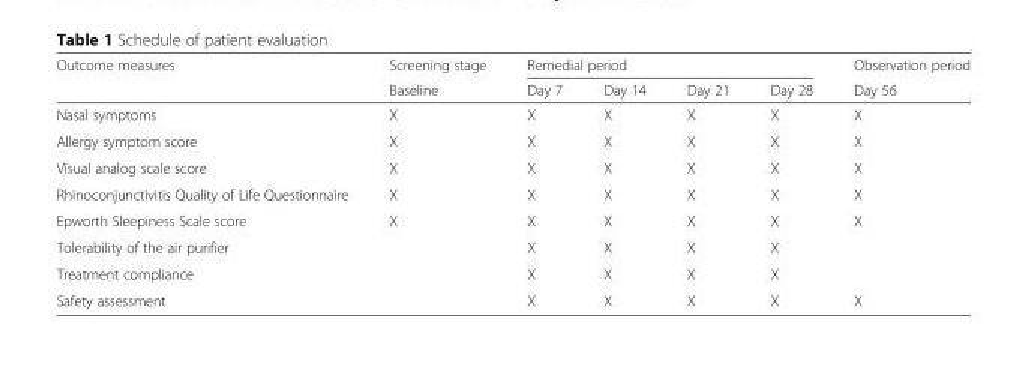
<table><thead><tr><td rowspan="2">Outcome measures</td><td rowspan="2">Screening stage Baseline</td><td colspan="4">Remedial period</td><td rowspan="2">Observation period Day 56</td></tr><tr><td>Day 7</td><td>Day 14</td><td>Day 21</td><td>Day 28</td></tr></thead><tbody><tr><td>Nasal symptoms</td><td>X</td><td>X</td><td>X</td><td>X</td><td>X</td><td>X</td></tr><tr><td>Allergy symptom score</td><td>X</td><td>X</td><td>X</td><td>X</td><td>X</td><td>X</td></tr><tr><td>Visual analog scale score</td><td>X</td><td>X</td><td>X</td><td>X</td><td>X</td><td>X</td></tr><tr><td>Rhinoconjunctivitis Quality of Life Questionnaire</td><td>X</td><td>X</td><td>X</td><td>X</td><td>X</td><td>X</td></tr><tr><td>Epworth Sleepiness Scale score</td><td>X</td><td>X</td><td>X</td><td>X</td><td>X</td><td>X</td></tr><tr><td>Tolerability of the air purifier</td><td></td><td>X</td><td>X</td><td>X</td><td>X</td><td></td></tr><tr><td>Treatment compliance</td><td></td><td>X</td><td>X</td><td>X</td><td>X</td><td></td></tr><tr><td>Safety assessment</td><td></td><td>X</td><td>X</td><td>X</td><td>X</td><td>X</td></tr></tbody></table>